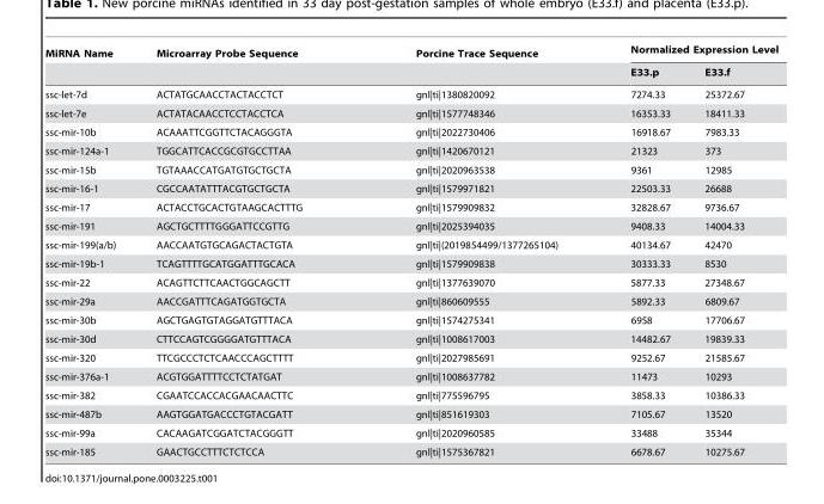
<table><thead><tr><td rowspan="2">MiRNA Name</td><td rowspan="2">Microarray Probe Sequence</td><td rowspan="2">Porcine Trace Sequence</td><td colspan="2">Normalized Expression Level</td></tr><tr><td>E33.p</td><td>E33.f</td></tr></thead><tbody><tr><td>ssc-let-7d</td><td>ACTATGCAACCTACTACCTCT</td><td>gnl|ti|1380820092</td><td>7274.33</td><td>25372.67</td></tr><tr><td>ssc-let-7e</td><td>ACTATACAACCTCCTACCTCA</td><td>gnl|ti|1577748346</td><td>16353.33</td><td>18411.33</td></tr><tr><td>ssc-mir-10b</td><td>ACAAATTCGGTTCTACAGGGTA</td><td>gnl|ti|2022730406</td><td>16918.67</td><td>7983.33</td></tr><tr><td>ssc-mir-124a-1</td><td>TGGCATTCACCGCGTGCCTTAA</td><td>gnl|ti|1420670121</td><td>21323</td><td>373</td></tr><tr><td>ssc-mir-15b</td><td>TGTAAACCATGATGTGCTGCTA</td><td>gnl|ti|2020963538</td><td>9361</td><td>12985</td></tr><tr><td>ssc-mir-16-1</td><td>CGCCAATATTTACGTGCTGCTA</td><td>gnl|ti|1579971821</td><td>22503.33</td><td>26688</td></tr><tr><td>ssc-mir-17</td><td>ACTACCTGCACTGTAAGCACTTTG</td><td>gnl|ti|1579909832</td><td>32828.67</td><td>9736.67</td></tr><tr><td>ssc-mir-191</td><td>AGCTGCTTTTGGGATTCCGTTG</td><td>gnl|ti|2025394035</td><td>9408.33</td><td>14004.33</td></tr><tr><td>ssc-mir-199(a/b)</td><td>AACCAATGTGCAGACTACTGTA</td><td>gnl|ti|(2019854499/1377265104)</td><td>40134.67</td><td>42470</td></tr><tr><td>ssc-mir-19b-1</td><td>TCAGTTTTGCATGGATTTGCACA</td><td>gnl|ti|1579909838</td><td>30333.33</td><td>8530</td></tr><tr><td>ssc-mir-22</td><td>ACAGTTCTTCAACTGGCAGCTT</td><td>gnl|ti|1377639070</td><td>5877.33</td><td>27348.67</td></tr><tr><td>ssc-mir-29a</td><td>AACCGATTTCAGATGGTGCTA</td><td>gnl|ti|860609555</td><td>5892.33</td><td>6809.67</td></tr><tr><td>ssc-mir-30b</td><td>AGCTGAGTGTAGGATGTTTACA</td><td>gnl|ti|1574275341</td><td>6958</td><td>17706.67</td></tr><tr><td>ssc-mir-30d</td><td>CTTCCAGTCGGGGATGTTTACA</td><td>gnl|ti|1008617003</td><td>14482.67</td><td>19839.33</td></tr><tr><td>ssc-mir-320</td><td>TTCGCCCTCTCAACCCAGCTTTT</td><td>gnl|ti|2027985691</td><td>9252.67</td><td>21585.67</td></tr><tr><td>ssc-mir-376a-1</td><td>ACGTGGATTTTCCTCTATGAT</td><td>gnl|ti|1008637782</td><td>11473</td><td>10293</td></tr><tr><td>ssc-mir-382</td><td>CGAATCCACCACGAACAACTTC</td><td>gnl|ti|775596795</td><td>3858.33</td><td>10386.33</td></tr><tr><td>ssc-mir-487b</td><td>AAGTGGATGACCCTGTACGATT</td><td>gnl|ti|851619303</td><td>7105.67</td><td>13520</td></tr><tr><td>ssc-mir-99a</td><td>CACAAGATCGGATCTACGGGTT</td><td>gnl|ti|2020960585</td><td>33488</td><td>35344</td></tr><tr><td>ssc-mir-185</td><td>GAACTGCCTTTCTCTCCA</td><td>gnl|ti|1575367821</td><td>6678.67</td><td>10275.67</td></tr></tbody></table>